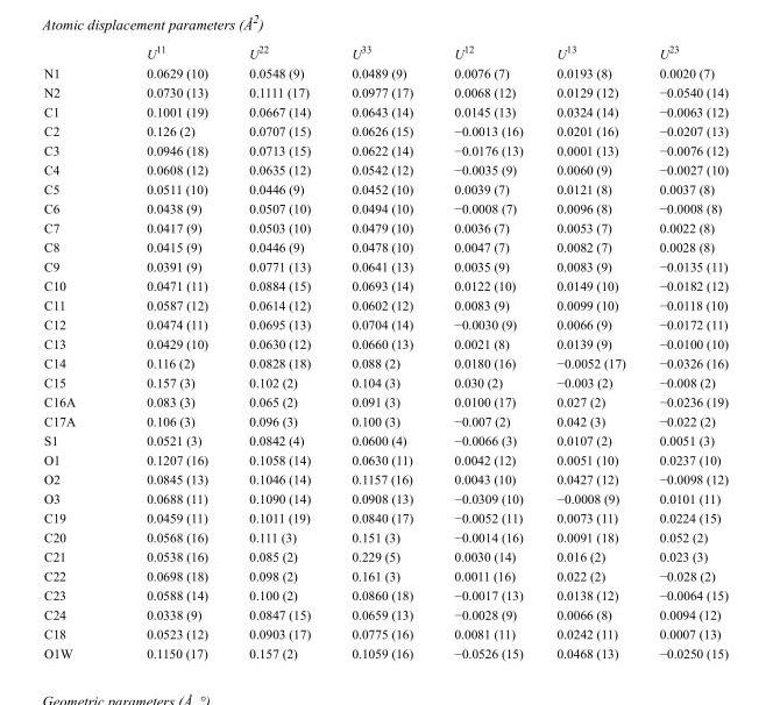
<table><thead><tr><td></td><td>U<sup>11</sup></td><td>U<sup>22</sup></td><td>U<sup>33</sup></td><td>U<sup>12</sup></td><td>U<sup>13</sup></td><td>U<sup>23</sup></td></tr></thead><tbody><tr><td>N1</td><td>0.0629 (10)</td><td>0.0548 (9)</td><td>0.0489 (9)</td><td>0.0076 (7)</td><td>0.0193 (8)</td><td>0.0020 (7)</td></tr><tr><td>N2</td><td>0.0730 (13)</td><td>0.1111 (17)</td><td>0.0977 (17)</td><td>0.0068 (12)</td><td>0.0129 (12)</td><td>−0.0540 (14)</td></tr><tr><td>C1</td><td>0.1001 (19)</td><td>0.0667 (14)</td><td>0.0643 (14)</td><td>0.0145 (13)</td><td>0.0324 (14)</td><td>−0.0063 (12)</td></tr><tr><td>C2</td><td>0.126 (2)</td><td>0.0707 (15)</td><td>0.0626 (15)</td><td>−0.0013 (16)</td><td>0.0201 (16)</td><td>−0.0207 (13)</td></tr><tr><td>C3</td><td>0.0946 (18)</td><td>0.0713 (15)</td><td>0.0622 (14)</td><td>−0.0176 (13)</td><td>0.0001 (13)</td><td>−0.0076 (12)</td></tr><tr><td>C4</td><td>0.0608 (12)</td><td>0.0635 (12)</td><td>0.0542 (12)</td><td>−0.0035 (9)</td><td>0.0060 (9)</td><td>−0.0027 (10)</td></tr><tr><td>C5</td><td>0.0511 (10)</td><td>0.0446 (9)</td><td>0.0452 (10)</td><td>0.0039 (7)</td><td>0.0121 (8)</td><td>0.0037 (8)</td></tr><tr><td>C6</td><td>0.0438 (9)</td><td>0.0507 (10)</td><td>0.0494 (10)</td><td>−0.0008 (7)</td><td>0.0096 (8)</td><td>−0.0008 (8)</td></tr><tr><td>C7</td><td>0.0417 (9)</td><td>0.0503 (10)</td><td>0.0479 (10)</td><td>0.0036 (7)</td><td>0.0053 (7)</td><td>0.0022 (8)</td></tr><tr><td>C8</td><td>0.0415 (9)</td><td>0.0446 (9)</td><td>0.0478 (10)</td><td>0.0047 (7)</td><td>0.0082 (7)</td><td>0.0028 (8)</td></tr><tr><td>C9</td><td>0.0391 (9)</td><td>0.0771 (13)</td><td>0.0641 (13)</td><td>0.0035 (9)</td><td>0.0083 (9)</td><td>−0.0135 (11)</td></tr><tr><td>C10</td><td>0.0471 (11)</td><td>0.0884 (15)</td><td>0.0693 (14)</td><td>0.0122 (10)</td><td>0.0149 (10)</td><td>−0.0182 (12)</td></tr><tr><td>C11</td><td>0.0587 (12)</td><td>0.0614 (12)</td><td>0.0602 (12)</td><td>0.0083 (9)</td><td>0.0099 (10)</td><td>−0.0118 (10)</td></tr><tr><td>C12</td><td>0.0474 (11)</td><td>0.0695 (13)</td><td>0.0704 (14)</td><td>−0.0030 (9)</td><td>0.0066 (9)</td><td>−0.0172 (11)</td></tr><tr><td>C13</td><td>0.0429 (10)</td><td>0.0630 (12)</td><td>0.0660 (13)</td><td>0.0021 (8)</td><td>0.0139 (9)</td><td>−0.0100 (10)</td></tr><tr><td>C14</td><td>0.116 (2)</td><td>0.0828 (18)</td><td>0.088 (2)</td><td>0.0180 (16)</td><td>−0.0052 (17)</td><td>−0.0326 (16)</td></tr><tr><td>C15</td><td>0.157 (3)</td><td>0.102 (2)</td><td>0.104 (3)</td><td>0.030 (2)</td><td>−0.003 (2)</td><td>−0.008 (2)</td></tr><tr><td>C16A</td><td>0.083 (3)</td><td>0.065 (2)</td><td>0.091 (3)</td><td>0.0100 (17)</td><td>0.027 (2)</td><td>−0.0236 (19)</td></tr><tr><td>C17A</td><td>0.106 (3)</td><td>0.096 (3)</td><td>0.100 (3)</td><td>−0.007 (2)</td><td>0.042 (3)</td><td>−0.022 (2)</td></tr><tr><td>S1</td><td>0.0521 (3)</td><td>0.0842 (4)</td><td>0.0600 (4)</td><td>−0.0066 (3)</td><td>0.0107 (2)</td><td>0.0051 (3)</td></tr><tr><td>O1</td><td>0.1207 (16)</td><td>0.1058 (14)</td><td>0.0630 (11)</td><td>0.0042 (12)</td><td>0.0051 (10)</td><td>0.0237 (10)</td></tr><tr><td>O2</td><td>0.0845 (13)</td><td>0.1046 (14)</td><td>0.1157 (16)</td><td>0.0043 (10)</td><td>0.0427 (12)</td><td>−0.0098 (12)</td></tr><tr><td>O3</td><td>0.0688 (11)</td><td>0.1090 (14)</td><td>0.0908 (13)</td><td>−0.0309 (10)</td><td>−0.0008 (9)</td><td>0.0101 (11)</td></tr><tr><td>C19</td><td>0.0459 (11)</td><td>0.1011 (19)</td><td>0.0840 (17)</td><td>−0.0052 (11)</td><td>0.0073 (11)</td><td>0.0224 (15)</td></tr><tr><td>C20</td><td>0.0568 (16)</td><td>0.111 (3)</td><td>0.151 (3)</td><td>−0.0014 (16)</td><td>0.0091 (18)</td><td>0.052 (2)</td></tr><tr><td>C21</td><td>0.0538 (16)</td><td>0.085 (2)</td><td>0.229 (5)</td><td>0.0030 (14)</td><td>0.016 (2)</td><td>0.023 (3)</td></tr><tr><td>C22</td><td>0.0698 (18)</td><td>0.098 (2)</td><td>0.161 (3)</td><td>0.0011 (16)</td><td>0.022 (2)</td><td>−0.028 (2)</td></tr><tr><td>C23</td><td>0.0588 (14)</td><td>0.100 (2)</td><td>0.0860 (18)</td><td>−0.0017 (13)</td><td>0.0138 (12)</td><td>−0.0064 (15)</td></tr><tr><td>C24</td><td>0.0338 (9)</td><td>0.0847 (15)</td><td>0.0659 (13)</td><td>−0.0028 (9)</td><td>0.0066 (8)</td><td>0.0094 (12)</td></tr><tr><td>C18</td><td>0.0523 (12)</td><td>0.0903 (17)</td><td>0.0775 (16)</td><td>0.0081 (11)</td><td>0.0242 (11)</td><td>0.0007 (13)</td></tr><tr><td>O1W</td><td>0.1150 (17)</td><td>0.157 (2)</td><td>0.1059 (16)</td><td>−0.0526 (15)</td><td>0.0468 (13)</td><td>−0.0250 (15)</td></tr></tbody></table>